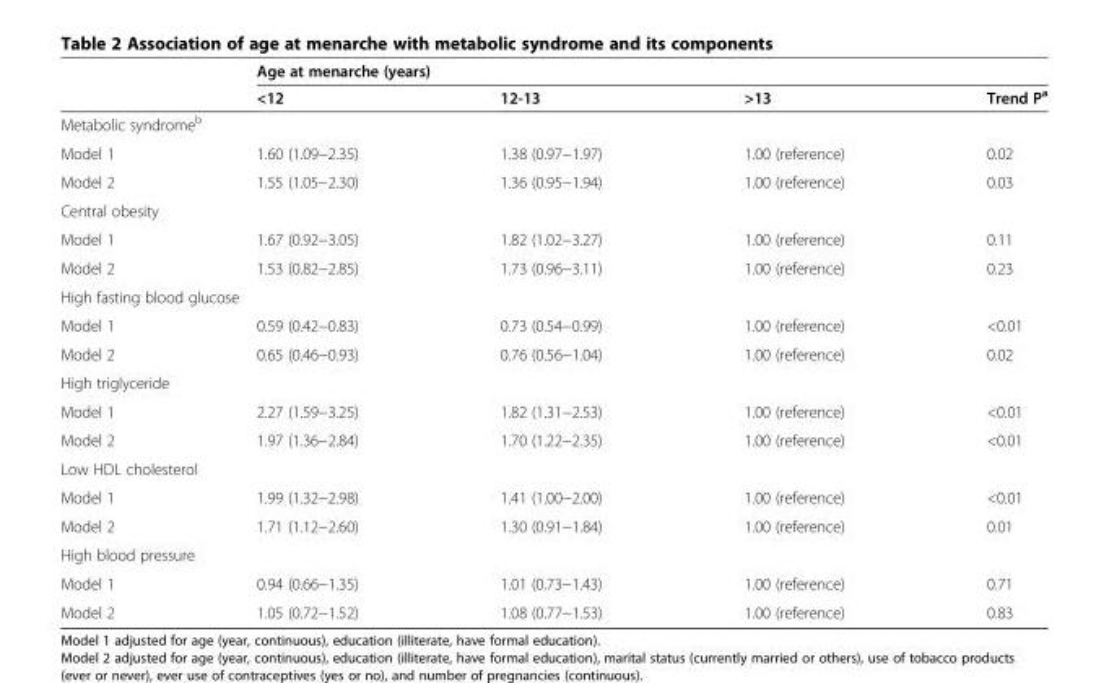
<table><thead><tr><td rowspan="2"></td><td colspan="4">Age at menarche (years)</td></tr><tr><td>&lt;12</td><td>12-13</td><td>&gt;13</td><td>Trend P<sup>a</sup></td></tr></thead><tbody><tr><td colspan="5">Metabolic syndrome<sup>b</sup></td></tr><tr><td>Model 1</td><td>1.60 (1.09−2.35)</td><td>1.38 (0.97−1.97)</td><td>1.00 (reference)</td><td>0.02</td></tr><tr><td>Model 2</td><td>1.55 (1.05−2.30)</td><td>1.36 (0.95−1.94)</td><td>1.00 (reference)</td><td>0.03</td></tr><tr><td colspan="5">Central obesity</td></tr><tr><td>Model 1</td><td>1.67 (0.92−3.05)</td><td>1.82 (1.02−3.27)</td><td>1.00 (reference)</td><td>0.11</td></tr><tr><td>Model 2</td><td>1.53 (0.82−2.85)</td><td>1.73 (0.96−3.11)</td><td>1.00 (reference)</td><td>0.23</td></tr><tr><td colspan="5">High fasting blood glucose</td></tr><tr><td>Model 1</td><td>0.59 (0.42−0.83)</td><td>0.73 (0.54−0.99)</td><td>1.00 (reference)</td><td>&lt;0.01</td></tr><tr><td>Model 2</td><td>0.65 (0.46−0.93)</td><td>0.76 (0.56−1.04)</td><td>1.00 (reference)</td><td>0.02</td></tr><tr><td colspan="5">High triglyceride</td></tr><tr><td>Model 1</td><td>2.27 (1.59−3.25)</td><td>1.82 (1.31−2.53)</td><td>1.00 (reference)</td><td>&lt;0.01</td></tr><tr><td>Model 2</td><td>1.97 (1.36−2.84)</td><td>1.70 (1.22−2.35)</td><td>1.00 (reference)</td><td>&lt;0.01</td></tr><tr><td colspan="5">Low HDL cholesterol</td></tr><tr><td>Model 1</td><td>1.99 (1.32−2.98)</td><td>1.41 (1.00−2.00)</td><td>1.00 (reference)</td><td>&lt;0.01</td></tr><tr><td>Model 2</td><td>1.71 (1.12−2.60)</td><td>1.30 (0.91−1.84)</td><td>1.00 (reference)</td><td>0.01</td></tr><tr><td colspan="5">High blood pressure</td></tr><tr><td>Model 1</td><td>0.94 (0.66−1.35)</td><td>1.01 (0.73−1.43)</td><td>1.00 (reference)</td><td>0.71</td></tr><tr><td>Model 2</td><td>1.05 (0.72−1.52)</td><td>1.08 (0.77−1.53)</td><td>1.00 (reference)</td><td>0.83</td></tr></tbody></table>